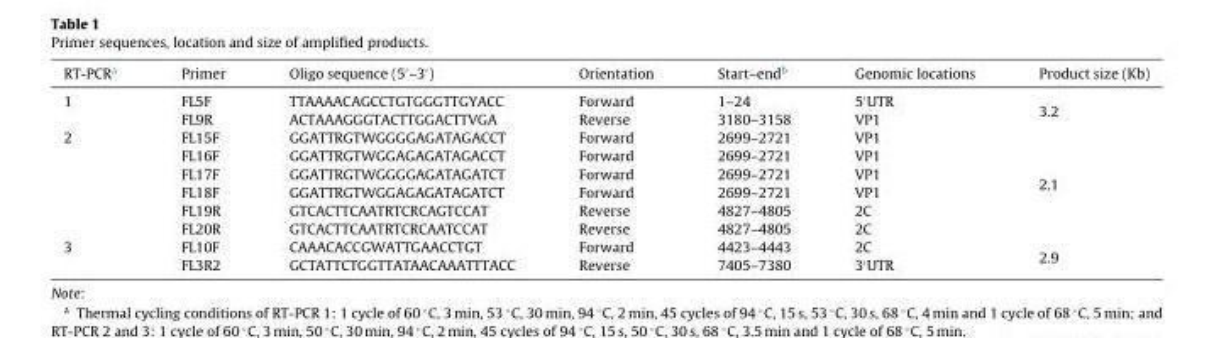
<table><thead><tr><td>RT-PCR<sup>a</sup></td><td>Primer</td><td>Oligo sequence (5′–3′)</td><td>Orientation</td><td>Start–end<sup>b</sup></td><td>Genomic locations</td><td>Product size (Kb)</td></tr></thead><tbody><tr><td rowspan="2">1</td><td>FL5F</td><td>TTAAAACAGCCTGTGGGTTGYACC</td><td>Forward</td><td>1–24</td><td>5′UTR</td><td rowspan="2">3.2</td></tr><tr><td>FL9R</td><td>ACTAAAGGGTACTTGGACTTVGA</td><td>Reverse</td><td>3180–3158</td><td>VP1</td></tr><tr><td rowspan="6">2</td><td>FL15F</td><td>GGATTRGTWGGGGAGATAGACCT</td><td>Forward</td><td>2699–2721</td><td>VP1</td><td rowspan="6">2.1</td></tr><tr><td>FL16F</td><td>GGATTRGTWGGAGAGATAGACCT</td><td>Forward</td><td>2699–2721</td><td>VP1</td></tr><tr><td>FL17F</td><td>GGATTRGTWGGGGAGATAGATCT</td><td>Forward</td><td>2699–2721</td><td>VP1</td></tr><tr><td>FL18F</td><td>GGATTRGTWGGAGAGATAGATCT</td><td>Forward</td><td>2699–2721</td><td>VP1</td></tr><tr><td>FL19R</td><td>GTCACTTCAATRTCRCAGTCCAT</td><td>Reverse</td><td>4827–4805</td><td>2C</td></tr><tr><td>FL20R</td><td>GTCACTTCAATRTCRCAATCCAT</td><td>Reverse</td><td>4827–4805</td><td>2C</td></tr><tr><td rowspan="2">3</td><td>FL10F</td><td>CAAACACCGWATTGAACCTGT</td><td>Forward</td><td>4423–4443</td><td>2C</td><td rowspan="2">2.9</td></tr><tr><td>FL3R2</td><td>GCTATTCTGGTTATAACAAATTTACC</td><td>Reverse</td><td>7405–7380</td><td>3′UTR</td></tr></tbody></table>